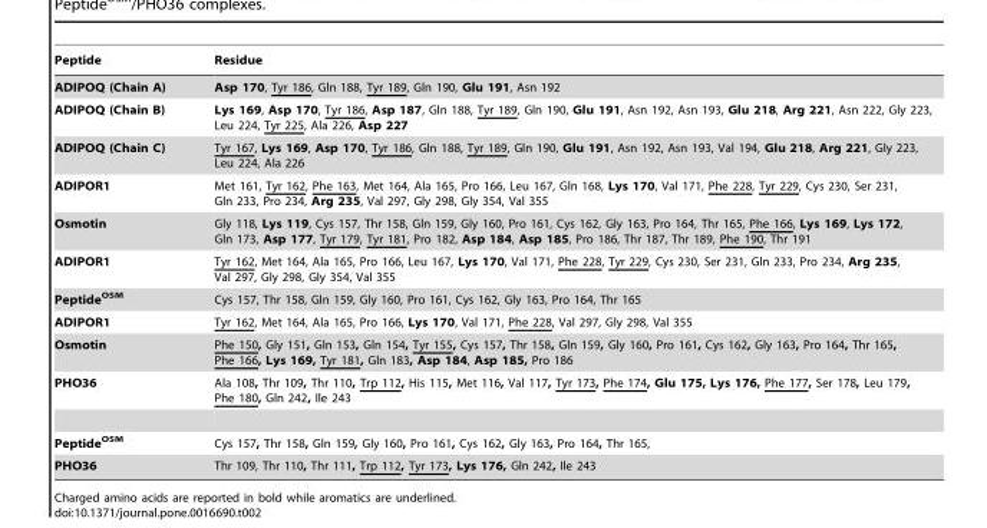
<table><thead><tr><td>Peptide</td><td>Residue</td></tr></thead><tbody><tr><td>ADIPOQ (Chain A)</td><td>Asp 170, Tyr 186, Gln 188, Tyr 189, Gln 190, Glu 191, Asn 192</td></tr><tr><td>ADIPOQ (Chain B)</td><td>Lys 169, Asp 170, Tyr 186, Asp 187, Gln 188, Tyr 189, Gln 190, Glu 191, Asn 192, Asn 193, Glu 218, Arg 221, Asn 222, Gly 223, Leu 224, Tyr 225, Ala 226, Asp 227</td></tr><tr><td>ADIPOQ (Chain C)</td><td>Tyr 167, Lys 169, Asp 170, Tyr 186, Gln 188, Tyr 189, Gln 190, Glu 191, Asn 192, Asn 193, Val 194, Glu 218, Arg 221, Gly 223, Leu 224, Ala 226</td></tr><tr><td>ADIPOR1</td><td>Met 161, Tyr 162, Phe 163, Met 164, Ala 165, Pro 166, Leu 167, Gln 168, Lys 170, Val 171, Phe 228, Tyr 229, Cys 230, Ser 231, Gln 233, Pro 234, Arg 235, Val 297, Gly 298, Gly 354, Val 355</td></tr><tr><td>Osmotin</td><td>Gly 118, Lys 119, Cys 157, Thr 158, Gln 159, Gly 160, Pro 161, Cys 162, Gly 163, Pro 164, Thr 165, Phe 166, Lys 169, Lys 172, Gln 173, Asp 177, Tyr 179, Tyr 181, Pro 182, Asp 184, Asp 185, Pro 186, Thr 187, Thr 189, Phe 190, Thr 191</td></tr><tr><td>ADIPOR1</td><td>Tyr 162, Met 164, Ala 165, Pro 166, Leu 167, Lys 170, Val 171, Phe 228, Tyr 229, Cys 230, Ser 231, Gln 233, Pro 234, Arg 235, Val 297, Gly 298, Gly 354, Val 355</td></tr><tr><td>Peptide<sup>OSM</sup></td><td>Cys 157, Thr 158, Gln 159, Gly 160, Pro 161, Cys 162, Gly 163, Pro 164, Thr 165</td></tr><tr><td>ADIPOR1</td><td>Tyr 162, Met 164, Ala 165, Pro 166, Lys 170, Val 171, Phe 228, Val 297, Gly 298, Val 355</td></tr><tr><td>Osmotin</td><td>Phe 150, Gly 151, Gln 153, Gln 154, Tyr 155, Cys 157, Thr 158, Gln 159, Gly 160, Pro 161, Cys 162, Gly 163, Pro 164, Thr 165, Phe 166, Lys 169, Tyr 181, Gln 183, Asp 184, Asp 185, Pro 186</td></tr><tr><td>PHO36</td><td>Ala 108, Thr 109, Thr 110, Trp 112, His 115, Met 116, Val 117, Tyr 173, Phe 174, Glu 175, Lys 176, Phe 177, Ser 178, Leu 179, Phe 180, Gln 242, Ile 243</td></tr><tr><td>Peptide<sup>OSM</sup></td><td>Cys 157, Thr 158, Gln 159, Gly 160, Pro 161, Cys 162, Gly 163, Pro 164, Thr 165,</td></tr><tr><td>PHO36</td><td>Thr 109, Thr 110, Thr 111, Trp 112, Tyr 173, Lys 176, Gln 242, Ile 243</td></tr></tbody></table>